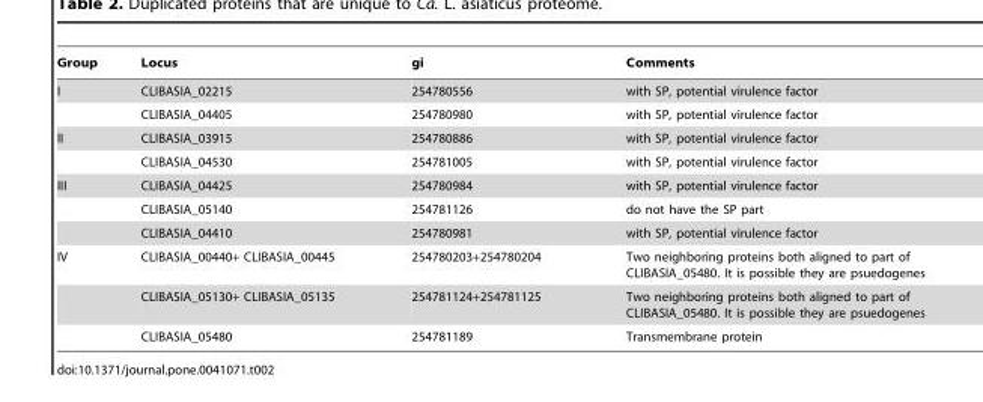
<table><thead><tr><td>Group</td><td>Locus</td><td>gi</td><td>Comments</td></tr></thead><tbody><tr><td rowspan="2">I</td><td>CLIBASIA_02215</td><td>254780556</td><td>with SP, potential virulence factor</td></tr><tr><td>CLIBASIA_04405</td><td>254780980</td><td>with SP, potential virulence factor</td></tr><tr><td rowspan="2">II</td><td>CLIBASIA_03915</td><td>254780886</td><td>with SP, potential virulence factor</td></tr><tr><td>CLIBASIA_04530</td><td>254781005</td><td>with SP, potential virulence factor</td></tr><tr><td rowspan="3">III</td><td>CLIBASIA_04425</td><td>254780984</td><td>with SP, potential virulence factor</td></tr><tr><td>CLIBASIA_05140</td><td>254781126</td><td>do not have the SP part</td></tr><tr><td>CLIBASIA_04410</td><td>254780981</td><td>with SP, potential virulence factor</td></tr><tr><td rowspan="3">IV</td><td>CLIBASIA_00440+ CLIBASIA_00445</td><td>254780203+254780204</td><td>Two neighboring proteins both aligned to part of CLIBASIA_05480. It is possible they are psuedogenes</td></tr><tr><td>CLIBASIA_05130+ CLIBASIA_05135</td><td>254781124+254781125</td><td>Two neighboring proteins both aligned to part of CLIBASIA_05480. It is possible they are psuedogenes</td></tr><tr><td>CLIBASIA_05480</td><td>254781189</td><td>Transmembrane protein</td></tr></tbody></table>